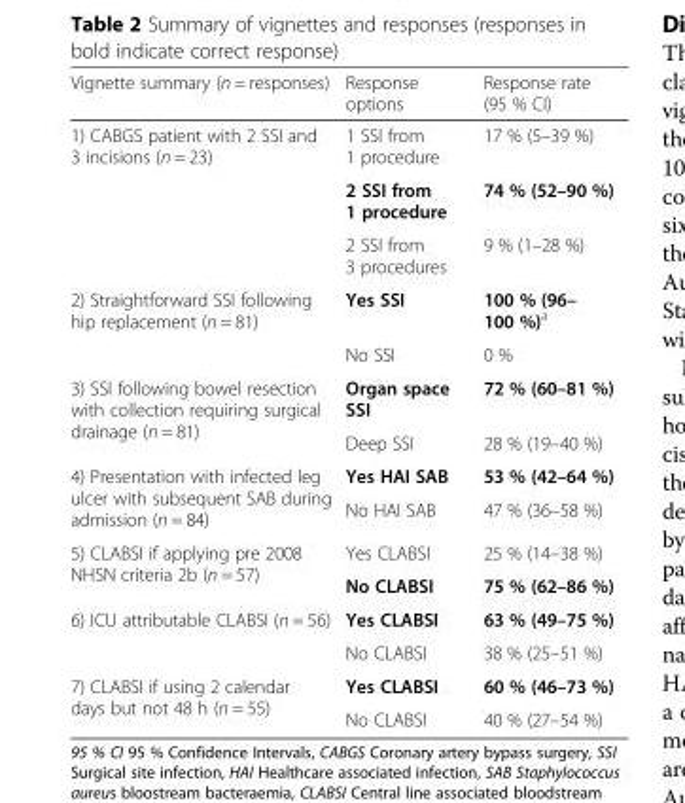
<table><thead><tr><td>Vignette summary (n = responses)</td><td>Response options</td><td>Response rate (95 % CI)</td></tr></thead><tbody><tr><td rowspan="3">1) CABGS patient with 2 SSI and 3 incisions (n = 23)</td><td>1 SSI from 1 procedure</td><td>17 % (5–39 %)</td></tr><tr><td>2 SSI from 1 procedure</td><td>74 % (52–90 %)</td></tr><tr><td>2 SSI from 3 procedures</td><td>9 % (1–28 %)</td></tr><tr><td rowspan="2">2) Straightforward SSI following hip replacement (n = 81)</td><td>Yes SSI</td><td>100 % (96– 100 %)<sup>a</sup></td></tr><tr><td>No SSI</td><td>0 %</td></tr><tr><td rowspan="2">3) SSI following bowel resection with collection requiring surgical drainage (n = 81)</td><td>Organ space SSI</td><td>72 % (60–81 %)</td></tr><tr><td>Deep SSI</td><td>28 % (19–40 %)</td></tr><tr><td rowspan="2">4) Presentation with infected leg ulcer with subsequent SAB during admission (n = 84)</td><td>Yes HAI SAB</td><td>53 % (42–64 %)</td></tr><tr><td>No HAI SAB</td><td>47 % (36–58 %)</td></tr><tr><td rowspan="2">5) CLABSI if applying pre 2008 NHSN criteria 2b (n = 57)</td><td>Yes CLABSI</td><td>25 % (14–38 %)</td></tr><tr><td>No CLABSI</td><td>75 % (62–86 %)</td></tr><tr><td rowspan="2">6) ICU attributable CLABSI (n = 56)</td><td>Yes CLABSI</td><td>63 % (49–75 %)</td></tr><tr><td>No CLABSI</td><td>38 % (25–51 %)</td></tr><tr><td rowspan="2">7) CLABSI if using 2 calendar days but not 48 h (n = 55)</td><td>Yes CLABSI</td><td>60 % (46–73 %)</td></tr><tr><td>No CLABSI</td><td>40 % (27–54 %)</td></tr></tbody></table>